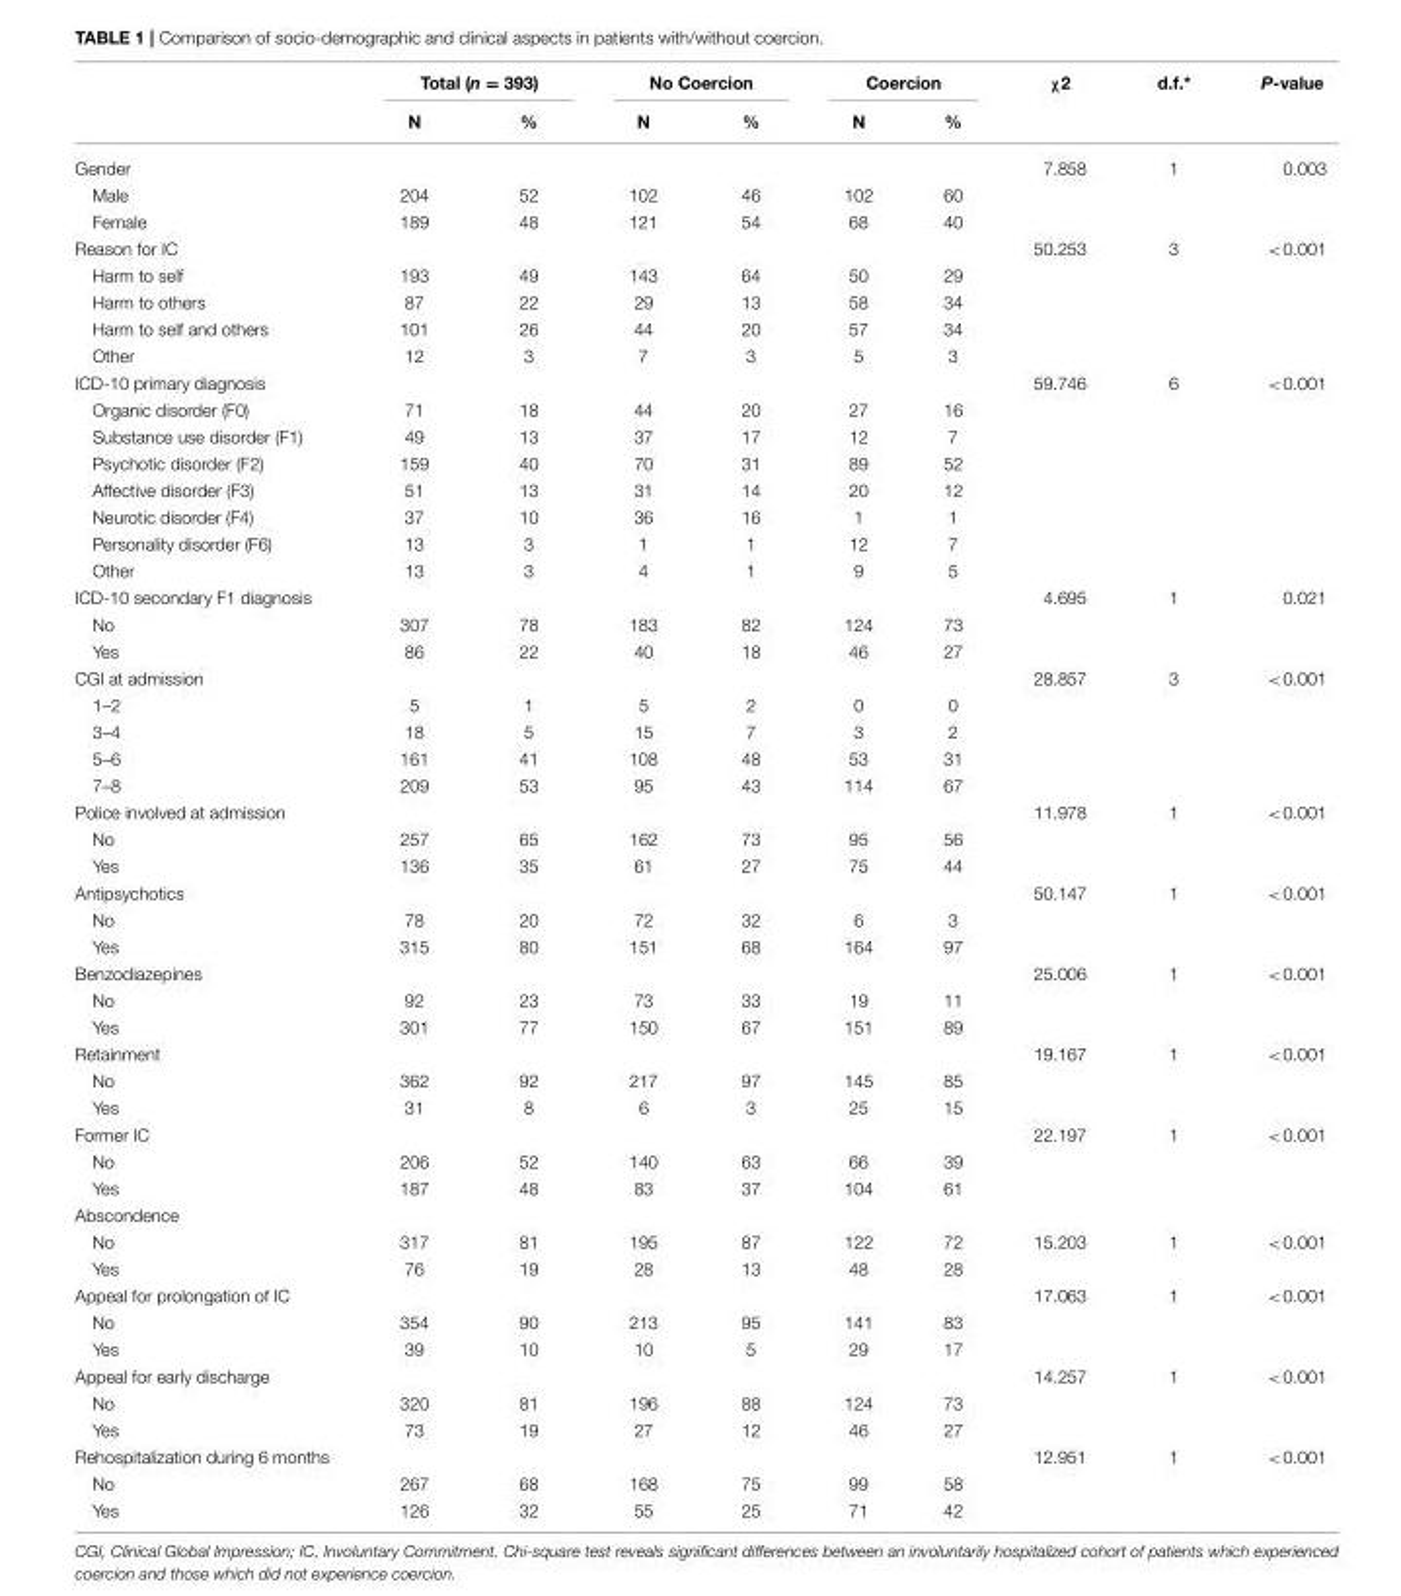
<table><thead><tr><td rowspan="2"></td><td colspan="2">Total (n = 393)</td><td colspan="2">No Coercion</td><td colspan="2">Coercion</td><td rowspan="2">χ<sup>2</sup></td><td rowspan="2">d.f.*</td><td rowspan="2">P-value</td></tr><tr><td>N</td><td>%</td><td>N</td><td>%</td><td>N</td><td>%</td></tr></thead><tbody><tr><td>Gender</td><td></td><td></td><td></td><td></td><td></td><td></td><td>7.858</td><td>1</td><td>0.003</td></tr><tr><td>Male</td><td>204</td><td>52</td><td>102</td><td>46</td><td>102</td><td>60</td><td></td><td></td><td></td></tr><tr><td>Female</td><td>189</td><td>48</td><td>121</td><td>54</td><td>68</td><td>40</td><td></td><td></td><td></td></tr><tr><td>Reason for IC</td><td></td><td></td><td></td><td></td><td></td><td></td><td>50.253</td><td>3</td><td>&lt;0.001</td></tr><tr><td>Harm to self</td><td>193</td><td>49</td><td>143</td><td>64</td><td>50</td><td>29</td><td></td><td></td><td></td></tr><tr><td>Harm to others</td><td>87</td><td>22</td><td>29</td><td>13</td><td>58</td><td>34</td><td></td><td></td><td></td></tr><tr><td>Harm to self and others</td><td>101</td><td>26</td><td>44</td><td>20</td><td>57</td><td>34</td><td></td><td></td><td></td></tr><tr><td>Other</td><td>12</td><td>3</td><td>7</td><td>3</td><td>5</td><td>3</td><td></td><td></td><td></td></tr><tr><td>ICD-10 primary diagnosis</td><td></td><td></td><td></td><td></td><td></td><td></td><td>59.746</td><td>6</td><td>&lt;0.001</td></tr><tr><td>Organic disorder (F0)</td><td>71</td><td>18</td><td>44</td><td>20</td><td>27</td><td>16</td><td></td><td></td><td></td></tr><tr><td>Substance use disorder (F1)</td><td>49</td><td>13</td><td>37</td><td>17</td><td>12</td><td>7</td><td></td><td></td><td></td></tr><tr><td>Psychotic disorder (F2)</td><td>159</td><td>40</td><td>70</td><td>31</td><td>89</td><td>52</td><td></td><td></td><td></td></tr><tr><td>Affective disorder (F3)</td><td>51</td><td>13</td><td>31</td><td>14</td><td>20</td><td>12</td><td></td><td></td><td></td></tr><tr><td>Neurotic disorder (F4)</td><td>37</td><td>10</td><td>36</td><td>16</td><td>1</td><td>1</td><td></td><td></td><td></td></tr><tr><td>Personality disorder (F6)</td><td>13</td><td>3</td><td>1</td><td>1</td><td>12</td><td>7</td><td></td><td></td><td></td></tr><tr><td>Other</td><td>13</td><td>3</td><td>4</td><td>1</td><td>9</td><td>5</td><td></td><td></td><td></td></tr><tr><td>ICD-10 secondary F1 diagnosis</td><td></td><td></td><td></td><td></td><td></td><td></td><td>4.695</td><td>1</td><td>0.021</td></tr><tr><td>No</td><td>307</td><td>78</td><td>183</td><td>82</td><td>124</td><td>73</td><td></td><td></td><td></td></tr><tr><td>Yes</td><td>86</td><td>22</td><td>40</td><td>18</td><td>46</td><td>27</td><td></td><td></td><td></td></tr><tr><td>CGI at admission</td><td></td><td></td><td></td><td></td><td></td><td></td><td>28.857</td><td>3</td><td>&lt;0.001</td></tr><tr><td>1–2</td><td>5</td><td>1</td><td>5</td><td>2</td><td>0</td><td>0</td><td></td><td></td><td></td></tr><tr><td>3–4</td><td>18</td><td>5</td><td>15</td><td>7</td><td>3</td><td>2</td><td></td><td></td><td></td></tr><tr><td>5–6</td><td>161</td><td>41</td><td>108</td><td>48</td><td>53</td><td>31</td><td></td><td></td><td></td></tr><tr><td>7–8</td><td>209</td><td>53</td><td>95</td><td>43</td><td>114</td><td>67</td><td></td><td></td><td></td></tr><tr><td>Police involved at admission</td><td></td><td></td><td></td><td></td><td></td><td></td><td>11.978</td><td>1</td><td>&lt;0.001</td></tr><tr><td>No</td><td>257</td><td>65</td><td>162</td><td>73</td><td>95</td><td>56</td><td></td><td></td><td></td></tr><tr><td>Yes</td><td>136</td><td>35</td><td>61</td><td>27</td><td>75</td><td>44</td><td></td><td></td><td></td></tr><tr><td>Antipsychotics</td><td></td><td></td><td></td><td></td><td></td><td></td><td>50.147</td><td>1</td><td>&lt;0.001</td></tr><tr><td>No</td><td>78</td><td>20</td><td>72</td><td>32</td><td>6</td><td>3</td><td></td><td></td><td></td></tr><tr><td>Yes</td><td>315</td><td>80</td><td>151</td><td>68</td><td>164</td><td>97</td><td></td><td></td><td></td></tr><tr><td>Benzodiazepines</td><td></td><td></td><td></td><td></td><td></td><td></td><td>25.006</td><td>1</td><td>&lt;0.001</td></tr><tr><td>No</td><td>92</td><td>23</td><td>73</td><td>33</td><td>19</td><td>11</td><td></td><td></td><td></td></tr><tr><td>Yes</td><td>301</td><td>77</td><td>150</td><td>67</td><td>151</td><td>89</td><td></td><td></td><td></td></tr><tr><td>Retainment</td><td></td><td></td><td></td><td></td><td></td><td></td><td>19.167</td><td>1</td><td>&lt;0.001</td></tr><tr><td>No</td><td>362</td><td>92</td><td>217</td><td>97</td><td>145</td><td>85</td><td></td><td></td><td></td></tr><tr><td>Yes</td><td>31</td><td>8</td><td>6</td><td>3</td><td>25</td><td>15</td><td></td><td></td><td></td></tr><tr><td>Former IC</td><td></td><td></td><td></td><td></td><td></td><td></td><td>22.197</td><td>1</td><td>&lt;0.001</td></tr><tr><td>No</td><td>206</td><td>52</td><td>140</td><td>63</td><td>66</td><td>39</td><td></td><td></td><td></td></tr><tr><td>Yes</td><td>187</td><td>48</td><td>83</td><td>37</td><td>104</td><td>61</td><td></td><td></td><td></td></tr><tr><td colspan="10">Abscondence</td></tr><tr><td>No</td><td>317</td><td>81</td><td>195</td><td>87</td><td>122</td><td>72</td><td>15.203</td><td>1</td><td>&lt;0.001</td></tr><tr><td>Yes</td><td>76</td><td>19</td><td>28</td><td>13</td><td>48</td><td>28</td><td></td><td></td><td></td></tr><tr><td>Appeal for prolongation of IC</td><td></td><td></td><td></td><td></td><td></td><td></td><td>17.063</td><td>1</td><td>&lt;0.001</td></tr><tr><td>No</td><td>354</td><td>90</td><td>213</td><td>95</td><td>141</td><td>83</td><td></td><td></td><td></td></tr><tr><td>Yes</td><td>39</td><td>10</td><td>10</td><td>5</td><td>29</td><td>17</td><td></td><td></td><td></td></tr><tr><td>Appeal for early discharge</td><td></td><td></td><td></td><td></td><td></td><td></td><td>14.257</td><td>1</td><td>&lt;0.001</td></tr><tr><td>No</td><td>320</td><td>81</td><td>196</td><td>88</td><td>124</td><td>73</td><td></td><td></td><td></td></tr><tr><td>Yes</td><td>73</td><td>19</td><td>27</td><td>12</td><td>46</td><td>27</td><td></td><td></td><td></td></tr><tr><td>Rehospitalization during 6 months</td><td></td><td></td><td></td><td></td><td></td><td></td><td>12.951</td><td>1</td><td>&lt;0.001</td></tr><tr><td>No</td><td>267</td><td>68</td><td>168</td><td>75</td><td>99</td><td>58</td><td></td><td></td><td></td></tr><tr><td>Yes</td><td>126</td><td>32</td><td>55</td><td>25</td><td>71</td><td>42</td><td></td><td></td><td></td></tr></tbody></table>